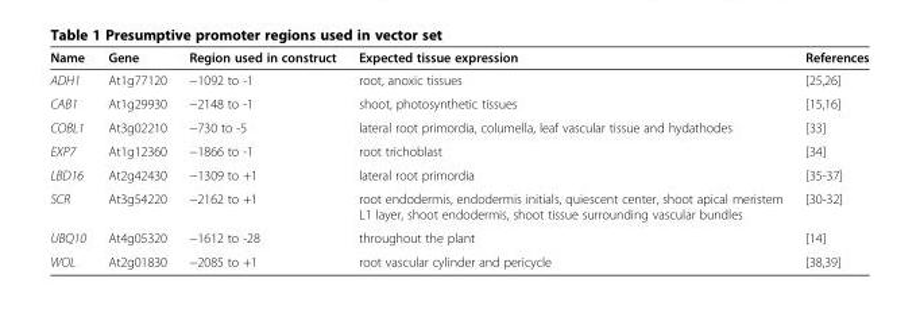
<table><thead><tr><td>Name</td><td>Gene</td><td>Region used in construct</td><td>Expected tissue expression</td><td>References</td></tr></thead><tbody><tr><td>ADH1</td><td>At1g77120</td><td>−1092 to -1</td><td>root, anoxic tissues</td><td>[25,26]</td></tr><tr><td>CAB1</td><td>At1g29930</td><td>−2148 to -1</td><td>shoot, photosynthetic tissues</td><td>[15,16]</td></tr><tr><td>COBL1</td><td>At3g02210</td><td>−730 to -5</td><td>lateral root primordia, columella, leaf vascular tissue and hydathodes</td><td>[33]</td></tr><tr><td>EXP7</td><td>At1g12360</td><td>−1866 to -1</td><td>root trichoblast</td><td>[34]</td></tr><tr><td>LBD16</td><td>At2g42430</td><td>−1309 to +1</td><td>lateral root primordia</td><td>[35-37]</td></tr><tr><td>SCR</td><td>At3g54220</td><td>−2162 to +1</td><td>root endodermis, endodermis initials, quiescent center, shoot apical meristem L1 layer, shoot endodermis, shoot tissue surrounding vascular bundles</td><td>[30-32]</td></tr><tr><td>UBQ10</td><td>At4g05320</td><td>−1612 to -28</td><td>throughout the plant</td><td>[14]</td></tr><tr><td>WOL</td><td>At2g01830</td><td>−2085 to +1</td><td>root vascular cylinder and pericycle</td><td>[38,39]</td></tr></tbody></table>